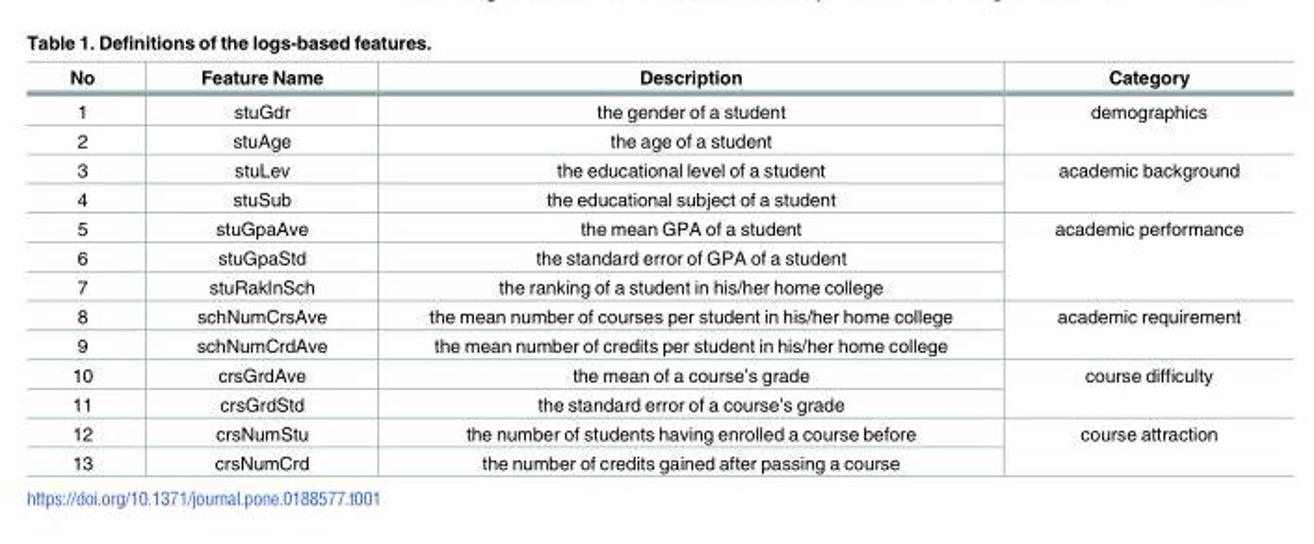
<table><thead><tr><td>No</td><td>Feature Name</td><td>Description</td><td>Category</td></tr></thead><tbody><tr><td>1</td><td>stuGdr</td><td>the gender of a student</td><td rowspan="2">demographics</td></tr><tr><td>2</td><td>stuAge</td><td>the age of a student</td></tr><tr><td>3</td><td>stuLev</td><td>the educational level of a student</td><td rowspan="2">academic background</td></tr><tr><td>4</td><td>stuSub</td><td>the educational subject of a student</td></tr><tr><td>5</td><td>stuGpaAve</td><td>the mean GPA of a student</td><td rowspan="3">academic performance</td></tr><tr><td>6</td><td>stuGpaStd</td><td>the standard error of GPA of a student</td></tr><tr><td>7</td><td>stuRakInSch</td><td>the ranking of a student in his/her home college</td></tr><tr><td>8</td><td>schNumCrsAve</td><td>the mean number of courses per student in his/her home college</td><td rowspan="2">academic requirement</td></tr><tr><td>9</td><td>schNumCrdAve</td><td>the mean number of credits per student in his/her home college</td></tr><tr><td>10</td><td>crsGrdAve</td><td>the mean of a course’s grade</td><td rowspan="2">course difficulty</td></tr><tr><td>11</td><td>crsGrdStd</td><td>the standard error of a course’s grade</td></tr><tr><td>12</td><td>crsNumStu</td><td>the number of students having enrolled a course before</td><td rowspan="2">course attraction</td></tr><tr><td>13</td><td>crsNumCrd</td><td>the number of credits gained after passing a course</td></tr></tbody></table>